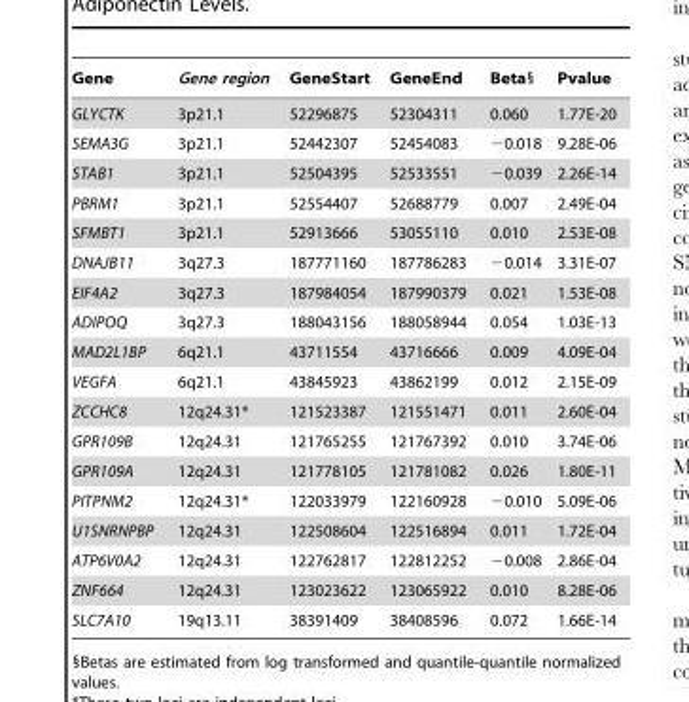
<table><thead><tr><td>Gene</td><td>Gene region</td><td>GeneStart</td><td>GeneEnd</td><td>Beta§</td><td>Pvalue</td></tr></thead><tbody><tr><td>GLYCTK</td><td>3p21.1</td><td>52296875</td><td>52304311</td><td>0.060</td><td>1.77E-20</td></tr><tr><td>SEMA3G</td><td>3p21.1</td><td>52442307</td><td>52454083</td><td>−0.018</td><td>9.28E-06</td></tr><tr><td>STAB1</td><td>3p21.1</td><td>52504395</td><td>52533551</td><td>−0.039</td><td>2.26E-14</td></tr><tr><td>PBRM1</td><td>3p21.1</td><td>52554407</td><td>52688779</td><td>0.007</td><td>2.49E-04</td></tr><tr><td>SFMBT1</td><td>3p21.1</td><td>52913666</td><td>53055110</td><td>0.010</td><td>2.53E-08</td></tr><tr><td>DNAJB11</td><td>3q27.3</td><td>187771160</td><td>187786283</td><td>−0.014</td><td>3.31E-07</td></tr><tr><td>EIF4A2</td><td>3q27.3</td><td>187984054</td><td>187990379</td><td>0.021</td><td>1.53E-08</td></tr><tr><td>ADIPOQ</td><td>3q27.3</td><td>188043156</td><td>188058944</td><td>0.054</td><td>1.03E-13</td></tr><tr><td>MAD2L1BP</td><td>6q21.1</td><td>43711554</td><td>43716666</td><td>0.009</td><td>4.09E-04</td></tr><tr><td>VEGFA</td><td>6q21.1</td><td>43845923</td><td>43862199</td><td>0.012</td><td>2.15E-09</td></tr><tr><td>ZCCHC8</td><td>12q24.31*</td><td>121523387</td><td>121551471</td><td>0.011</td><td>2.60E-04</td></tr><tr><td>GPR109B</td><td>12q24.31</td><td>121765255</td><td>121767392</td><td>0.010</td><td>3.74E-06</td></tr><tr><td>GPR109A</td><td>12q24.31</td><td>121778105</td><td>121781082</td><td>0.026</td><td>1.80E-11</td></tr><tr><td>PITPNM2</td><td>12q24.31*</td><td>122033979</td><td>122160928</td><td>−0.010</td><td>5.09E-06</td></tr><tr><td>U1SNRNPBP</td><td>12q24.31</td><td>122508604</td><td>122516894</td><td>0.011</td><td>1.72E-04</td></tr><tr><td>ATP6V0A2</td><td>12q24.31</td><td>122762817</td><td>122812252</td><td>−0.008</td><td>2.86E-04</td></tr><tr><td>ZNF664</td><td>12q24.31</td><td>123023622</td><td>123065922</td><td>0.010</td><td>8.28E-06</td></tr><tr><td>SLC7A10</td><td>19q13.11</td><td>38391409</td><td>38408596</td><td>0.072</td><td>1.66E-14</td></tr></tbody></table>